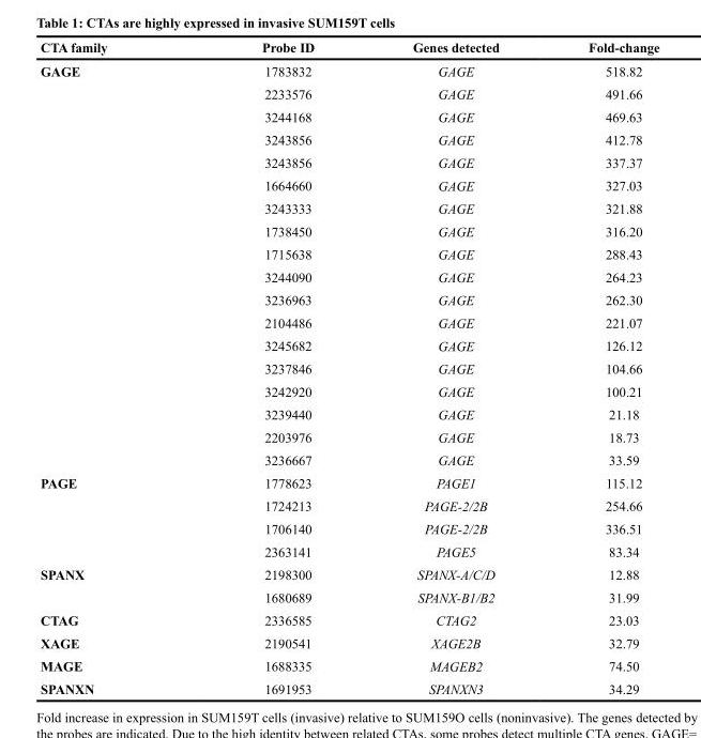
<table><thead><tr><td>CTA family</td><td>Probe ID</td><td>Genes detected</td><td>Fold-change</td></tr></thead><tbody><tr><td rowspan="18">GAGE</td><td>1783832</td><td>GAGE</td><td>518.82</td></tr><tr><td>2233576</td><td>GAGE</td><td>491.66</td></tr><tr><td>3244168</td><td>GAGE</td><td>469.63</td></tr><tr><td>3243856</td><td>GAGE</td><td>412.78</td></tr><tr><td>3243856</td><td>GAGE</td><td>337.37</td></tr><tr><td>1664660</td><td>GAGE</td><td>327.03</td></tr><tr><td>3243333</td><td>GAGE</td><td>321.88</td></tr><tr><td>1738450</td><td>GAGE</td><td>316.20</td></tr><tr><td>1715638</td><td>GAGE</td><td>288.43</td></tr><tr><td>3244090</td><td>GAGE</td><td>264.23</td></tr><tr><td>3236963</td><td>GAGE</td><td>262.30</td></tr><tr><td>2104486</td><td>GAGE</td><td>221.07</td></tr><tr><td>3245682</td><td>GAGE</td><td>126.12</td></tr><tr><td>3237846</td><td>GAGE</td><td>104.66</td></tr><tr><td>3242920</td><td>GAGE</td><td>100.21</td></tr><tr><td>3239440</td><td>GAGE</td><td>21.18</td></tr><tr><td>2203976</td><td>GAGE</td><td>18.73</td></tr><tr><td>3236667</td><td>GAGE</td><td>33.59</td></tr><tr><td rowspan="4">PAGE</td><td>1778623</td><td>PAGE1</td><td>115.12</td></tr><tr><td>1724213</td><td>PAGE-2/2B</td><td>254.66</td></tr><tr><td>1706140</td><td>PAGE-2/2B</td><td>336.51</td></tr><tr><td>2363141</td><td>PAGE5</td><td>83.34</td></tr><tr><td rowspan="2">SPANX</td><td>2198300</td><td>SPANX-A/C/D</td><td>12.88</td></tr><tr><td>1680689</td><td>SPANX-B1/B2</td><td>31.99</td></tr><tr><td>CTAG</td><td>2336585</td><td>CTAG2</td><td>23.03</td></tr><tr><td>XAGE</td><td>2190541</td><td>XAGE2B</td><td>32.79</td></tr><tr><td>MAGE</td><td>1688335</td><td>MAGEB2</td><td>74.50</td></tr><tr><td>SPANXN</td><td>1691953</td><td>SPANXN3</td><td>34.29</td></tr></tbody></table>